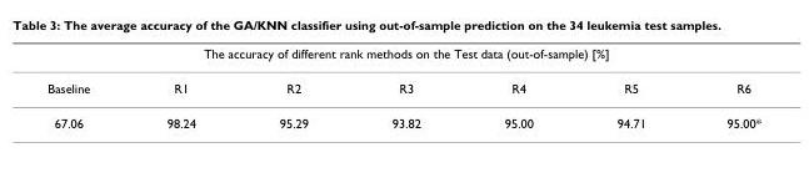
<table><thead><tr><td colspan="7">The accuracy of different rank methods on the Test data (out-of-sample) [%]</td></tr><tr><td>Baseline</td><td>R1</td><td>R2</td><td>R3</td><td>R4</td><td>R5</td><td>R6</td></tr></thead><tbody><tr><td>67.06</td><td>98.24</td><td>95.29</td><td>93.82</td><td>95.00</td><td>94.71</td><td>95.00*</td></tr></tbody></table>